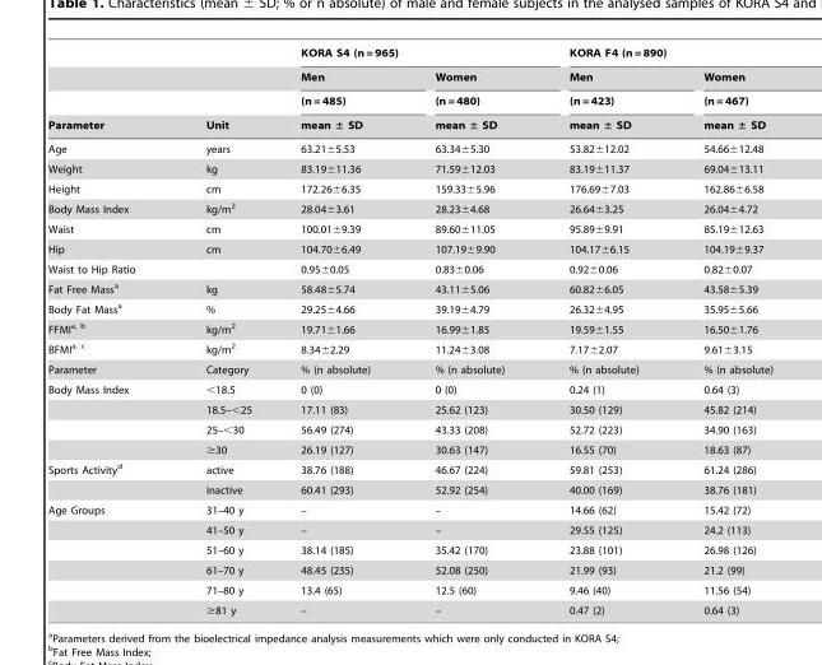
<table><thead><tr><td rowspan="4">Parameter</td><td rowspan="4">Unit</td><td colspan="2">KORA S4 (n = 965)</td><td colspan="2">KORA F4 (n = 890)</td></tr><tr><td rowspan="3">Men (n = 485) mean ± SD</td><td rowspan="3">Women (n = 480) mean ± SD</td><td rowspan="3">Men (n = 423) mean ± SD</td><td rowspan="3">Women (n = 467) mean ± SD</td></tr><tr></tr><tr></tr></thead><tbody><tr><td>Age</td><td>years</td><td>63.21±5.53</td><td>63.34±5.30</td><td>53.82±12.02</td><td>54.66±12.48</td></tr><tr><td>Weight</td><td>kg</td><td>83.19±11.36</td><td>71.59±12.03</td><td>83.19±11.37</td><td>69.04±13.11</td></tr><tr><td>Height</td><td>cm</td><td>172.26±6.35</td><td>159.33±5.96</td><td>176.69±7.03</td><td>162.86±6.58</td></tr><tr><td>Body Mass Index</td><td>kg/m<sup>2</sup></td><td>28.04±3.61</td><td>28.23±4.68</td><td>26.64±3.25</td><td>26.04±4.72</td></tr><tr><td>Waist</td><td>cm</td><td>100.01±9.39</td><td>89.60±11.05</td><td>95.89±9.91</td><td>85.19±12.63</td></tr><tr><td>Hip</td><td>cm</td><td>104.70±6.49</td><td>107.19±9.90</td><td>104.17±6.15</td><td>104.19±9.37</td></tr><tr><td>Waist to Hip Ratio</td><td></td><td>0.95±0.05</td><td>0.83±0.06</td><td>0.92±0.06</td><td>0.82±0.07</td></tr><tr><td>Fat Free Mass<sup>a</sup></td><td>kg</td><td>58.48±5.74</td><td>43.11±5.06</td><td>60.82±6.05</td><td>43.58±5.39</td></tr><tr><td>Body Fat Mass<sup>a</sup></td><td>%</td><td>29.25±4.66</td><td>39.19±4.79</td><td>26.32±4.95</td><td>35.95±5.66</td></tr><tr><td>FFMIa, b</td><td>kg/m<sup>2</sup></td><td>19.71±1.66</td><td>16.99±1.85</td><td>19.59±1.55</td><td>16.50±1.76</td></tr><tr><td>BFMIa, c</td><td>kg/m<sup>2</sup></td><td>8.34±2.29</td><td>11.24±3.08</td><td>7.17±2.07</td><td>9.61±3.15</td></tr><tr><td>Parameter</td><td>Category</td><td>% (n absolute)</td><td>% (n absolute)</td><td>% (n absolute)</td><td>% (n absolute)</td></tr><tr><td rowspan="4">Body Mass Index</td><td>&lt;18.5</td><td>0 (0)</td><td>0 (0)</td><td>0.24 (1)</td><td>0.64 (3)</td></tr><tr><td>18.5–&lt;25</td><td>17.11 (83)</td><td>25.62 (123)</td><td>30.50 (129)</td><td>45.82 (214)</td></tr><tr><td>25–&lt;30</td><td>56.49 (274)</td><td>43.33 (208)</td><td>52.72 (223)</td><td>34.90 (163)</td></tr><tr><td>≥30</td><td>26.19 (127)</td><td>30.63 (147)</td><td>16.55 (70)</td><td>18.63 (87)</td></tr><tr><td rowspan="2">Sports Activity<sup>d</sup></td><td>active</td><td>38.76 (188)</td><td>46.67 (224)</td><td>59.81 (253)</td><td>61.24 (286)</td></tr><tr><td>inactive</td><td>60.41 (293)</td><td>52.92 (254)</td><td>40.00 (169)</td><td>38.76 (181)</td></tr><tr><td rowspan="6">Age Groups</td><td>31–40 y</td><td>–</td><td>–</td><td>14.66 (62)</td><td>15.42 (72)</td></tr><tr><td>41–50 y</td><td>–</td><td>–</td><td>29.55 (125)</td><td>24.2 (113)</td></tr><tr><td>51–60 y</td><td>38.14 (185)</td><td>35.42 (170)</td><td>23.88 (101)</td><td>26.98 (126)</td></tr><tr><td>61–70 y</td><td>48.45 (235)</td><td>52.08 (250)</td><td>21.99 (93)</td><td>21.2 (99)</td></tr><tr><td>71–80 y</td><td>13.4 (65)</td><td>12.5 (60)</td><td>9.46 (40)</td><td>11.56 (54)</td></tr><tr><td>≥81 y</td><td>–</td><td>–</td><td>0.47 (2)</td><td>0.64 (3)</td></tr></tbody></table>